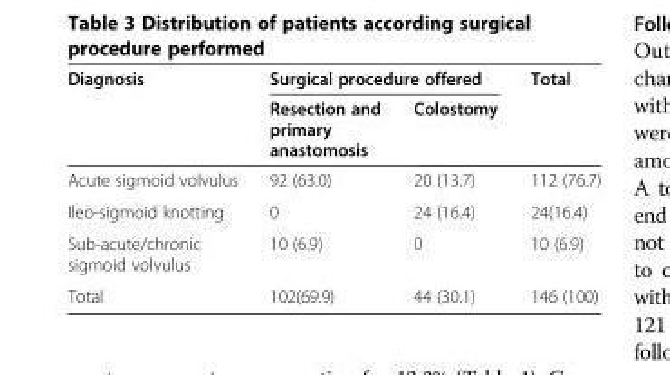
<table><thead><tr><td rowspan="2">Diagnosis</td><td colspan="2">Surgical procedure offered</td><td rowspan="2">Total</td></tr><tr><td>Resection and primary anastomosis</td><td>Colostomy</td></tr></thead><tbody><tr><td>Acute sigmoid volvulus</td><td>92 (63.0)</td><td>20 (13.7)</td><td>112 (76.7)</td></tr><tr><td>Ileo-sigmoid knotting</td><td>0</td><td>24 (16.4)</td><td>24(16.4)</td></tr><tr><td>Sub-acute/chronic sigmoid volvulus</td><td>10 (6.9)</td><td>0</td><td>10 (6.9)</td></tr><tr><td>Total</td><td>102(69.9)</td><td>44 (30.1)</td><td>146 (100)</td></tr></tbody></table>